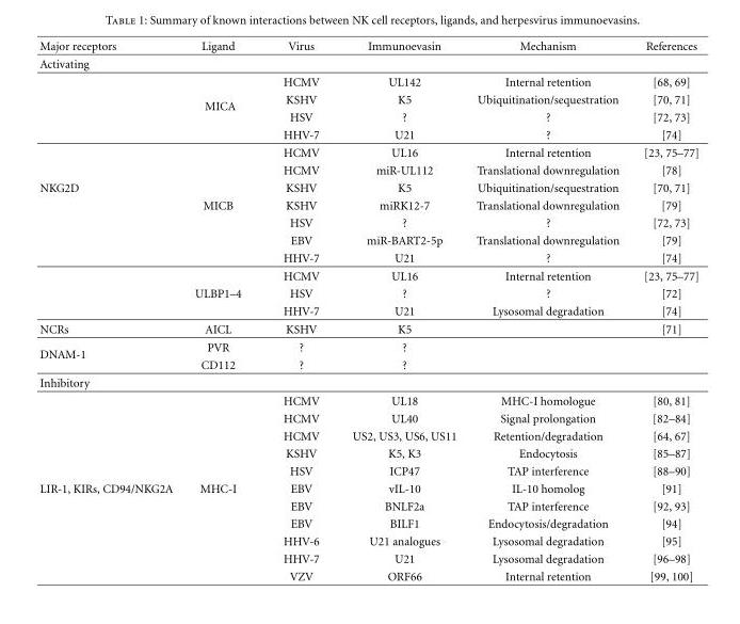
<table><thead><tr><td>Major receptors</td><td>Ligand</td><td>Virus</td><td>Immunoevasin</td><td>Mechanism</td><td>References</td></tr></thead><tbody><tr><td colspan="6">Activating</td></tr><tr><td></td><td rowspan="4">MICA</td><td>HCMV</td><td>UL142</td><td>Internal retention</td><td>[68, 69]</td></tr><tr><td></td><td>KSHV</td><td>K5</td><td>Ubiquitination/sequestration</td><td>[70, 71]</td></tr><tr><td></td><td>HSV</td><td>?</td><td>?</td><td>[72, 73]</td></tr><tr><td></td><td>HHV-7</td><td>U21</td><td>?</td><td>[74]</td></tr><tr><td></td><td></td><td>HCMV</td><td>UL16</td><td>Internal retention</td><td>[23, 75–77]</td></tr><tr><td></td><td></td><td>HCMV</td><td>miR-UL112</td><td>Translational downregulation</td><td>[78]</td></tr><tr><td rowspan="8">NKG2D</td><td></td><td>KSHV</td><td>K5</td><td>Ubiquitination/sequestration</td><td>[70, 71]</td></tr><tr><td>MICB</td><td>KSHV</td><td>miRK12-7</td><td>Translational downregulation</td><td>[79]</td></tr><tr><td></td><td>HSV</td><td>?</td><td>?</td><td>[72, 73]</td></tr><tr><td></td><td>EBV</td><td>miR-BART2-5p</td><td>Translational downregulation</td><td>[79]</td></tr><tr><td></td><td>HHV-7</td><td>U21</td><td>?</td><td>[74]</td></tr><tr><td></td><td>HCMV</td><td>UL16</td><td>Internal retention</td><td>[23, 75–77]</td></tr><tr><td>ULBP1–4</td><td>HSV</td><td>?</td><td>?</td><td>[72]</td></tr><tr><td></td><td>HHV-7</td><td>U21</td><td>Lysosomal degradation</td><td>[74]</td></tr><tr><td>NCRs</td><td>AICL</td><td>KSHV</td><td>K5</td><td></td><td>[71]</td></tr><tr><td rowspan="2">DNAM-1</td><td>PVR</td><td>?</td><td>?</td><td></td><td></td></tr><tr><td>CD112</td><td>?</td><td>?</td><td></td><td></td></tr><tr><td colspan="6">Inhibitory</td></tr><tr><td></td><td></td><td>HCMV</td><td>UL18</td><td>MHC-I homologue</td><td>[80, 81]</td></tr><tr><td></td><td></td><td>HCMV</td><td>UL40</td><td>Signal prolongation</td><td>[82–84]</td></tr><tr><td></td><td></td><td>HCMV</td><td>US2, US3, US6, US11</td><td>Retention/degradation</td><td>[64, 67]</td></tr><tr><td></td><td></td><td>KSHV</td><td>K5, K3</td><td>Endocytosis</td><td>[85–87]</td></tr><tr><td></td><td></td><td>HSV</td><td>ICP47</td><td>TAP interference</td><td>[88–90]</td></tr><tr><td rowspan="6">LIR-1, KIRs, CD94/NKG2A</td><td>MHC-I</td><td>EBV</td><td>vIL-10</td><td>IL-10 homolog</td><td>[91]</td></tr><tr><td></td><td>EBV</td><td>BNLF2a</td><td>TAP interference</td><td>[92, 93]</td></tr><tr><td></td><td>EBV</td><td>BILF1</td><td>Endocytosis/degradation</td><td>[94]</td></tr><tr><td></td><td>HHV-6</td><td>U21 analogues</td><td>Lysosomal degradation</td><td>[95]</td></tr><tr><td></td><td>HHV-7</td><td>U21</td><td>Lysosomal degradation</td><td>[96–98]</td></tr><tr><td></td><td>VZV</td><td>ORF66</td><td>Internal retention</td><td>[99, 100]</td></tr></tbody></table>